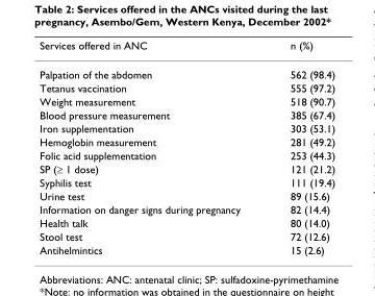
<table><thead><tr><td>Services offered in ANC</td><td>n (%)</td></tr></thead><tbody><tr><td>Palpation of the abdomen</td><td>562 (98.4)</td></tr><tr><td>Tetanus vaccination</td><td>555 (97.2)</td></tr><tr><td>Weight measurement</td><td>518 (90.7)</td></tr><tr><td>Blood pressure measurement</td><td>385 (67.4)</td></tr><tr><td>Iron supplementation</td><td>303 (53.1)</td></tr><tr><td>Hemoglobin measurement</td><td>281 (49.2)</td></tr><tr><td>Folic acid supplementation</td><td>253 (44.3)</td></tr><tr><td>SP (≥ 1 dose)</td><td>121 (21.2)</td></tr><tr><td>Syphilis test</td><td>111 (19.4)</td></tr><tr><td>Urine test</td><td>89 (15.6)</td></tr><tr><td>Information on danger signs during pregnancy</td><td>82 (14.4)</td></tr><tr><td>Health talk</td><td>80 (14.0)</td></tr><tr><td>Stool test</td><td>72 (12.6)</td></tr><tr><td>Antihelmintics</td><td>15 (2.6)</td></tr></tbody></table>